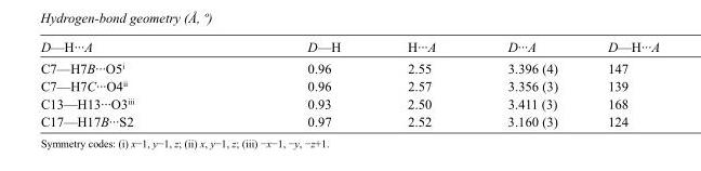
<table><tbody><tr><td>D—H···A</td><td>D—H</td><td>H···A</td><td>D···A</td><td>D—H···A</td></tr><tr><td>C7—H7B···O5<sup>i</sup></td><td>0.96</td><td>2.55</td><td>3.396 (4)</td><td>147</td></tr><tr><td>C7—H7C···O4<sup>ii</sup></td><td>0.96</td><td>2.57</td><td>3.356 (3)</td><td>139</td></tr><tr><td>C13—H13···O3<sup>iii</sup></td><td>0.93</td><td>2.50</td><td>3.411 (3)</td><td>168</td></tr><tr><td>C17—H17B···S2</td><td>0.97</td><td>2.52</td><td>3.160 (3)</td><td>124</td></tr></tbody></table>